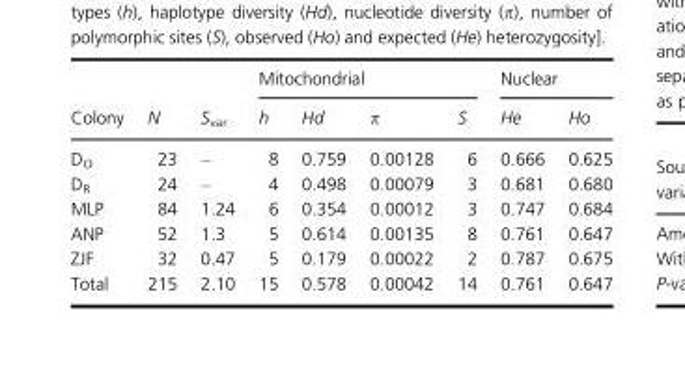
<table><thead><tr><td rowspan="2">Colony</td><td rowspan="2">N</td><td rowspan="2">S<sub>var</sub></td><td colspan="4">Mitochondrial</td><td colspan="2">Nuclear</td></tr><tr><td>h</td><td>Hd</td><td>π</td><td>S</td><td>He</td><td>Ho</td></tr></thead><tbody><tr><td>D<sub>O</sub></td><td>23</td><td>–</td><td>8</td><td>0.759</td><td>0.00128</td><td>6</td><td>0.666</td><td>0.625</td></tr><tr><td>D<sub>R</sub></td><td>24</td><td>–</td><td>4</td><td>0.498</td><td>0.00079</td><td>3</td><td>0.681</td><td>0.680</td></tr><tr><td>MLP</td><td>84</td><td>1.24</td><td>6</td><td>0.354</td><td>0.00012</td><td>3</td><td>0.747</td><td>0.684</td></tr><tr><td>ANP</td><td>52</td><td>1.3</td><td>5</td><td>0.614</td><td>0.00135</td><td>8</td><td>0.761</td><td>0.647</td></tr><tr><td>ZJF</td><td>32</td><td>0.47</td><td>5</td><td>0.179</td><td>0.00022</td><td>2</td><td>0.787</td><td>0.675</td></tr><tr><td>Total</td><td>215</td><td>2.10</td><td>15</td><td>0.578</td><td>0.00042</td><td>14</td><td>0.761</td><td>0.647</td></tr></tbody></table>